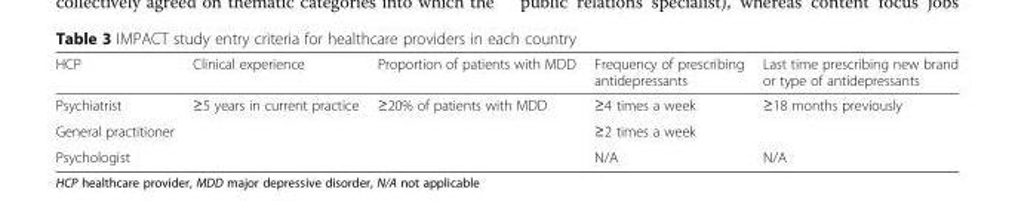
<table><thead><tr><td>HCP</td><td>Clinical experience</td><td>Proportion of patients with MDD</td><td>Frequency of prescribing antidepressants</td><td>Last time prescribing new brand or type of antidepressants</td></tr></thead><tbody><tr><td>Psychiatrist</td><td rowspan="3">≥5 years in current practice</td><td rowspan="3">≥20% of patients with MDD</td><td>≥4 times a week</td><td rowspan="2">≥18 months previously</td></tr><tr><td>General practitioner</td><td>≥2 times a week</td></tr><tr><td>Psychologist</td><td>N/A</td><td>N/A</td></tr></tbody></table>